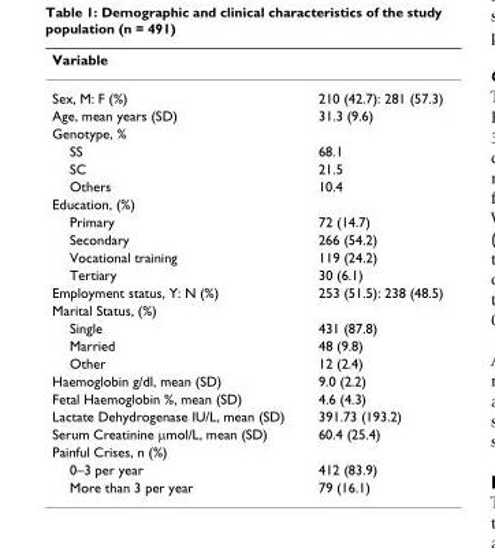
<table><thead><tr><td>Variable</td><td></td></tr></thead><tbody><tr><td>Sex, M: F (%)</td><td>210 (42.7): 281 (57.3)</td></tr><tr><td>Age, mean years (SD)</td><td>31.3 (9.6)</td></tr><tr><td colspan="2">Genotype, %</td></tr><tr><td>SS</td><td>68.1</td></tr><tr><td>SC</td><td>21.5</td></tr><tr><td>Others</td><td>10.4</td></tr><tr><td colspan="2">Education, (%)</td></tr><tr><td>Primary</td><td>72 (14.7)</td></tr><tr><td>Secondary</td><td>266 (54.2)</td></tr><tr><td>Vocational training</td><td>119 (24.2)</td></tr><tr><td>Tertiary</td><td>30 (6.1)</td></tr><tr><td>Employment status, Y: N (%)</td><td>253 (51.5): 238 (48.5)</td></tr><tr><td colspan="2">Marital Status, (%)</td></tr><tr><td>Single</td><td>431 (87.8)</td></tr><tr><td>Married</td><td>48 (9.8)</td></tr><tr><td>Other</td><td>12 (2.4)</td></tr><tr><td>Haemoglobin g/dl, mean (SD)</td><td>9.0 (2.2)</td></tr><tr><td>Fetal Haemoglobin %, mean (SD)</td><td>4.6 (4.3)</td></tr><tr><td>Lactate Dehydrogenase IU/L, mean (SD)</td><td>391.73 (193.2)</td></tr><tr><td>Serum Creatinine μmol/L, mean (SD)</td><td>60.4 (25.4)</td></tr><tr><td colspan="2">Painful Crises, n (%)</td></tr><tr><td>0–3 per year</td><td>412 (83.9)</td></tr><tr><td>More than 3 per year</td><td>79 (16.1)</td></tr></tbody></table>